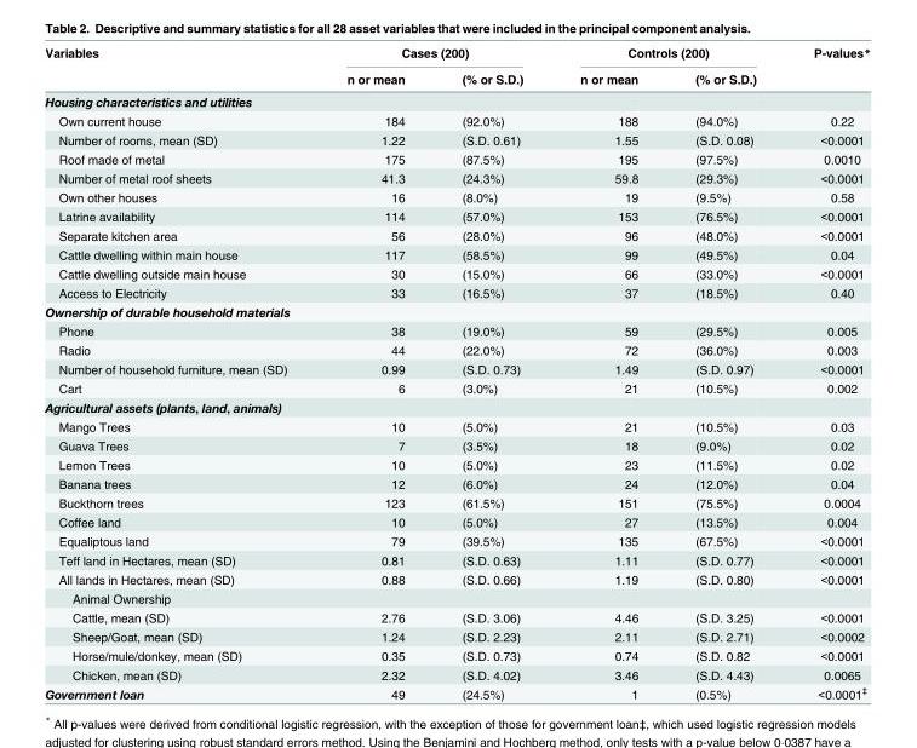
<table><thead><tr><td rowspan="2">Variables</td><td colspan="2">Cases (200)</td><td colspan="2">Controls (200)</td><td rowspan="2">P-values*</td></tr><tr><td>n or mean</td><td>(% or S.D.)</td><td>n or mean</td><td>(% or S.D.)</td></tr></thead><tbody><tr><td colspan="6">Housing characteristics and utilities</td></tr><tr><td>Own current house</td><td>184</td><td>(92.0%)</td><td>188</td><td>(94.0%)</td><td>0.22</td></tr><tr><td>Number of rooms, mean (SD)</td><td>1.22</td><td>(S.D. 0.61)</td><td>1.55</td><td>(S.D. 0.08)</td><td>&lt;0.0001</td></tr><tr><td>Roof made of metal</td><td>175</td><td>(87.5%)</td><td>195</td><td>(97.5%)</td><td>0.0010</td></tr><tr><td>Number of metal roof sheets</td><td>41.3</td><td>(24.3%)</td><td>59.8</td><td>(29.3%)</td><td>&lt;0.0001</td></tr><tr><td>Own other houses</td><td>16</td><td>(8.0%)</td><td>19</td><td>(9.5%)</td><td>0.58</td></tr><tr><td>Latrine availability</td><td>114</td><td>(57.0%)</td><td>153</td><td>(76.5%)</td><td>&lt;0.0001</td></tr><tr><td>Separate kitchen area</td><td>56</td><td>(28.0%)</td><td>96</td><td>(48.0%)</td><td>&lt;0.0001</td></tr><tr><td>Cattle dwelling within main house</td><td>117</td><td>(58.5%)</td><td>99</td><td>(49.5%)</td><td>0.04</td></tr><tr><td>Cattle dwelling outside main house</td><td>30</td><td>(15.0%)</td><td>66</td><td>(33.0%)</td><td>&lt;0.0001</td></tr><tr><td>Access to Electricity</td><td>33</td><td>(16.5%)</td><td>37</td><td>(18.5%)</td><td>0.40</td></tr><tr><td colspan="6">Ownership of durable household materials</td></tr><tr><td>Phone</td><td>38</td><td>(19.0%)</td><td>59</td><td>(29.5%)</td><td>0.005</td></tr><tr><td>Radio</td><td>44</td><td>(22.0%)</td><td>72</td><td>(36.0%)</td><td>0.003</td></tr><tr><td>Number of household furniture, mean (SD)</td><td>0.99</td><td>(S.D. 0.73)</td><td>1.49</td><td>(S.D. 0.97)</td><td>&lt;0.0001</td></tr><tr><td>Cart</td><td>6</td><td>(3.0%)</td><td>21</td><td>(10.5%)</td><td>0.002</td></tr><tr><td colspan="6">Agricultural assets (plants, land, animals)</td></tr><tr><td>Mango Trees</td><td>10</td><td>(5.0%)</td><td>21</td><td>(10.5%)</td><td>0.03</td></tr><tr><td>Guava Trees</td><td>7</td><td>(3.5%)</td><td>18</td><td>(9.0%)</td><td>0.02</td></tr><tr><td>Lemon Trees</td><td>10</td><td>(5.0%)</td><td>23</td><td>(11.5%)</td><td>0.02</td></tr><tr><td>Banana trees</td><td>12</td><td>(6.0%)</td><td>24</td><td>(12.0%)</td><td>0.04</td></tr><tr><td>Buckthorn trees</td><td>123</td><td>(61.5%)</td><td>151</td><td>(75.5%)</td><td>0.0004</td></tr><tr><td>Coffee land</td><td>10</td><td>(5.0%)</td><td>27</td><td>(13.5%)</td><td>0.004</td></tr><tr><td>Equaliptous land</td><td>79</td><td>(39.5%)</td><td>135</td><td>(67.5%)</td><td>&lt;0.0001</td></tr><tr><td>Teff land in Hectares, mean (SD)</td><td>0.81</td><td>(S.D. 0.63)</td><td>1.11</td><td>(S.D. 0.77)</td><td>&lt;0.0001</td></tr><tr><td>All lands in Hectares, mean (SD)</td><td>0.88</td><td>(S.D. 0.66)</td><td>1.19</td><td>(S.D. 0.80)</td><td>&lt;0.0001</td></tr><tr><td colspan="6">Animal Ownership</td></tr><tr><td>Cattle, mean (SD)</td><td>2.76</td><td>(S.D. 3.06)</td><td>4.46</td><td>(S.D. 3.25)</td><td>&lt;0.0001</td></tr><tr><td>Sheep/Goat, mean (SD)</td><td>1.24</td><td>(S.D. 2.23)</td><td>2.11</td><td>(S.D. 2.71)</td><td>&lt;0.0002</td></tr><tr><td>Horse/mule/donkey, mean (SD)</td><td>0.35</td><td>(S.D. 0.73)</td><td>0.74</td><td>(S.D. 0.82</td><td>&lt;0.0001</td></tr><tr><td>Chicken, mean (SD)</td><td>2.32</td><td>(S.D. 4.02)</td><td>3.46</td><td>(S.D. 4.43)</td><td>0.0065</td></tr><tr><td>Government loan</td><td>49</td><td>(24.5%)</td><td>1</td><td>(0.5%)</td><td>&lt;0.0001<sup>‡</sup></td></tr></tbody></table>